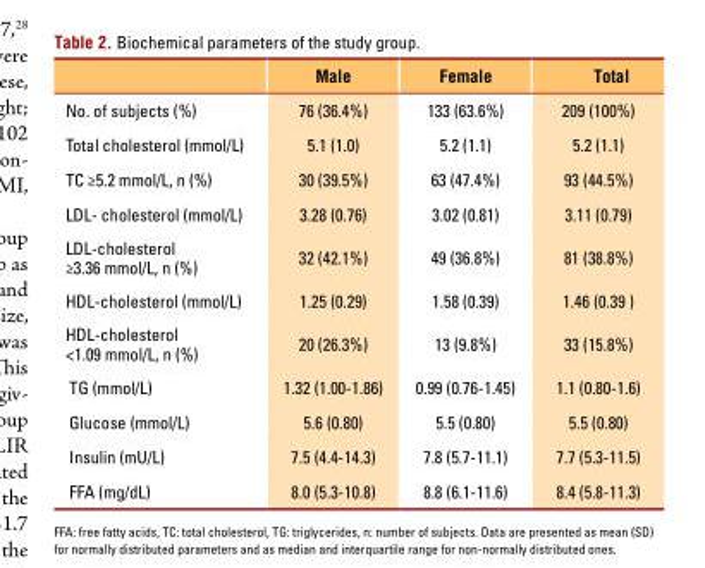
<table><thead><tr><td></td><td>Male</td><td>Female</td><td>Total</td></tr></thead><tbody><tr><td>No. of subjects (%)</td><td>76 (36.4%)</td><td>133 (63.6%)</td><td>209 (100%)</td></tr><tr><td>Total cholesterol (mmol/L)</td><td>5.1 (1.0)</td><td>5.2 (1.1)</td><td>5.2 (1.1)</td></tr><tr><td>TC ≥5.2 mmol/L, n (%)</td><td>30 (39.5%)</td><td>63 (47.4%)</td><td>93 (44.5%)</td></tr><tr><td>LDL- cholesterol (mmol/L)</td><td>3.28 (0.76)</td><td>3.02 (0.81)</td><td>3.11 (0.79)</td></tr><tr><td>LDL-cholesterol ≥3.36 mmol/L, n (%)</td><td>32 (42.1%)</td><td>49 (36.8%)</td><td>81 (38.8%)</td></tr><tr><td>HDL-cholesterol (mmol/L)</td><td>1.25 (0.29)</td><td>1.58 (0.39)</td><td>1.46 (0.39 )</td></tr><tr><td>HDL-cholesterol &lt;1.09 mmol/L, n (%)</td><td>20 (26.3%)</td><td>13 (9.8%)</td><td>33 (15.8%)</td></tr><tr><td>TG (mmol/L)</td><td>1.32 (1.00-1.86)</td><td>0.99 (0.76-1.45)</td><td>1.1 (0.80-1.6)</td></tr><tr><td>Glucose (mmol/L)</td><td>5.6 (0.80)</td><td>5.5 (0.80)</td><td>5.5 (0.80)</td></tr><tr><td>Insulin (mU/L)</td><td>7.5 (4.4-14.3)</td><td>7.8 (5.7-11.1)</td><td>7.7 (5.3-11.5)</td></tr><tr><td>FFA (mg/dL)</td><td>8.0 (5.3-10.8)</td><td>8.8 (6.1-11.6)</td><td>8.4 (5.8-11.3)</td></tr></tbody></table>